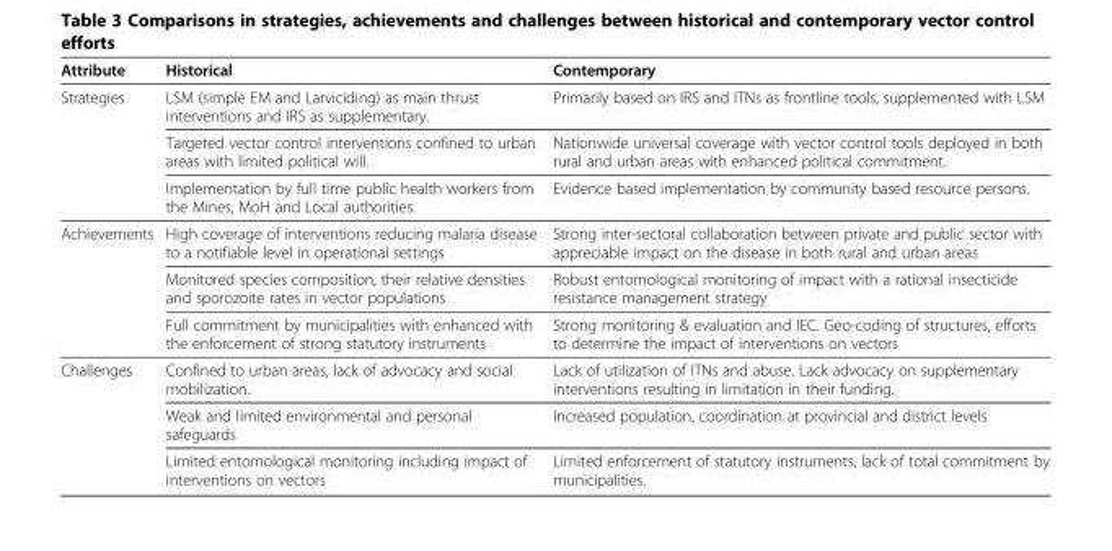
<table><thead><tr><td>Attribute</td><td>Historical</td><td>Contemporary</td></tr></thead><tbody><tr><td rowspan="3">Strategies</td><td>LSM (simple EM and Larviciding) as main thrust interventions and IRS as supplementary.</td><td>Primarily based on IRS and ITNs as frontline tools, supplemented with LSM</td></tr><tr><td>Targeted vector control interventions confined to urban areas with limited political will.</td><td>Nationwide universal coverage with vector control tools deployed in both rural and urban areas with enhanced political commitment.</td></tr><tr><td>Implementation by full time public health workers from the Mines, MoH and Local authorities.</td><td>Evidence based implementation by community based resource persons.</td></tr><tr><td rowspan="3">Achievements</td><td>High coverage of interventions reducing malaria disease to a notifiable level in operational settings</td><td>Strong inter-sectoral collaboration between private and public sector with appreciable impact on the disease in both rural and urban areas</td></tr><tr><td>Monitored species composition, their relative densities and sporozoite rates in vector populations</td><td>Robust entomological monitoring of impact with a rational insecticide resistance management strategy</td></tr><tr><td>Full commitment by municipalities with enhanced with the enforcement of strong statutory instruments</td><td>Strong monitoring &amp; evaluation and IEC. Geo-coding of structures, efforts to determine the impact of interventions on vectors</td></tr><tr><td rowspan="3">Challenges</td><td>Confined to urban areas, lack of advocacy and social mobilization.</td><td>Lack of utilization of ITNs and abuse. Lack advocacy on supplementary interventions resulting in limitation in their funding.</td></tr><tr><td>Weak and limited environmental and personal safeguards</td><td>Increased population, coordination at provincial and district levels</td></tr><tr><td>Limited entomological monitoring including impact of interventions on vectors</td><td>Limited enforcement of statutory instruments, lack of total commitment by municipalities.</td></tr></tbody></table>